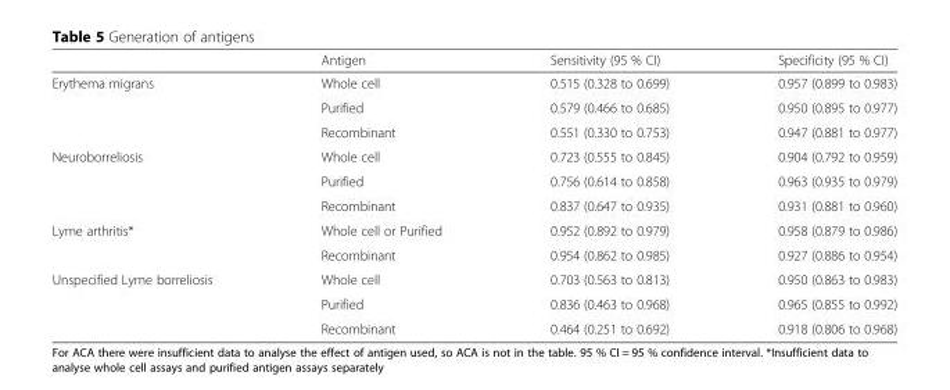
<table><thead><tr><td></td><td>Antigen</td><td>Sensitivity (95 % CI)</td><td>Specificity (95 % CI)</td></tr></thead><tbody><tr><td rowspan="3">Erythema migrans</td><td>Whole cell</td><td>0.515 (0.328 to 0.699)</td><td>0.957 (0.899 to 0.983)</td></tr><tr><td>Purified</td><td>0.579 (0.466 to 0.685)</td><td>0.950 (0.895 to 0.977)</td></tr><tr><td>Recombinant</td><td>0.551 (0.330 to 0.753)</td><td>0.947 (0.881 to 0.977)</td></tr><tr><td rowspan="3">Neuroborreliosis</td><td>Whole cell</td><td>0.723 (0.555 to 0.845)</td><td>0.904 (0.792 to 0.959)</td></tr><tr><td>Purified</td><td>0.756 (0.614 to 0.858)</td><td>0.963 (0.935 to 0.979)</td></tr><tr><td>Recombinant</td><td>0.837 (0.647 to 0.935)</td><td>0.931 (0.881 to 0.960)</td></tr><tr><td rowspan="2">Lyme arthritis*</td><td>Whole cell or Purified</td><td>0.952 (0.892 to 0.979)</td><td>0.958 (0.879 to 0.986)</td></tr><tr><td>Recombinant</td><td>0.954 (0.862 to 0.985)</td><td>0.927 (0.886 to 0.954)</td></tr><tr><td rowspan="3">Unspecified Lyme borreliosis</td><td>Whole cell</td><td>0.703 (0.563 to 0.813)</td><td>0.950 (0.863 to 0.983)</td></tr><tr><td>Purified</td><td>0.836 (0.463 to 0.968)</td><td>0.965 (0.855 to 0.992)</td></tr><tr><td>Recombinant</td><td>0.464 (0.251 to 0.692)</td><td>0.918 (0.806 to 0.968)</td></tr></tbody></table>